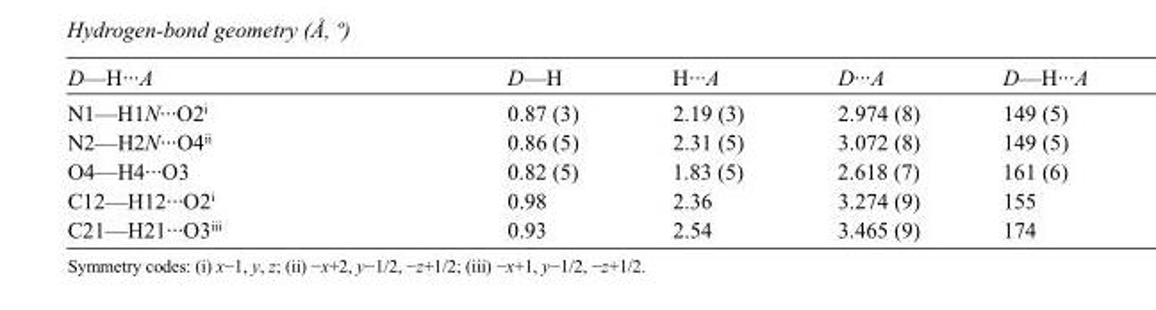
<table><tbody><tr><td>D—H···A</td><td>D—H</td><td>H···A</td><td>D···A</td><td>D—H···A</td></tr><tr><td>N1—H1N···O2<sup>i</sup></td><td>0.87 (3)</td><td>2.19 (3)</td><td>2.974 (8)</td><td>149 (5)</td></tr><tr><td>N2—H2N···O4<sup>ii</sup></td><td>0.86 (5)</td><td>2.31 (5)</td><td>3.072 (8)</td><td>149 (5)</td></tr><tr><td>O4—H4···O3</td><td>0.82 (5)</td><td>1.83 (5)</td><td>2.618 (7)</td><td>161 (6)</td></tr><tr><td>C12—H12···O2<sup>i</sup></td><td>0.98</td><td>2.36</td><td>3.274 (9)</td><td>155</td></tr><tr><td>C21—H21···O3<sup>iii</sup></td><td>0.93</td><td>2.54</td><td>3.465 (9)</td><td>174</td></tr></tbody></table>